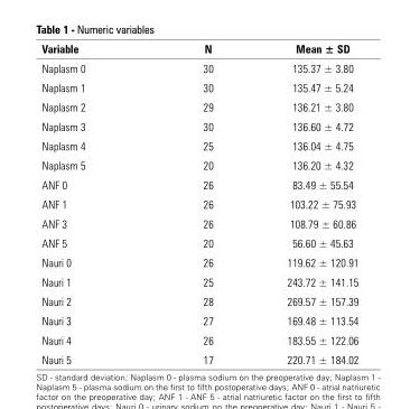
<table><thead><tr><td>Variable</td><td>N</td><td>Mean ± SD</td></tr></thead><tbody><tr><td>Naplasm 0</td><td>30</td><td>135.37 ± 3.80</td></tr><tr><td>Naplasm 1</td><td>30</td><td>135.47 ± 5.24</td></tr><tr><td>Naplasm 2</td><td>29</td><td>136.21 ± 3.80</td></tr><tr><td>Naplasm 3</td><td>30</td><td>136.60 ± 4.72</td></tr><tr><td>Naplasm 4</td><td>25</td><td>136.04 ± 4.75</td></tr><tr><td>Naplasm 5</td><td>20</td><td>136.20 ± 4.32</td></tr><tr><td>ANF 0</td><td>26</td><td>83.49 ± 55.54</td></tr><tr><td>ANF 1</td><td>26</td><td>103.22 ± 75.93</td></tr><tr><td>ANF 3</td><td>26</td><td>108.79 ± 60.86</td></tr><tr><td>ANF 5</td><td>20</td><td>56.60 ± 45.63</td></tr><tr><td>Nauri 0</td><td>26</td><td>119.62 ± 120.91</td></tr><tr><td>Nauri 1</td><td>25</td><td>243.72 ± 141.15</td></tr><tr><td>Nauri 2</td><td>28</td><td>269.57 ± 157.39</td></tr><tr><td>Nauri 3</td><td>27</td><td>169.48 ± 113.54</td></tr><tr><td>Nauri 4</td><td>26</td><td>183.55 ± 122.06</td></tr><tr><td>Nauri 5</td><td>17</td><td>220.71 ± 184.02</td></tr></tbody></table>